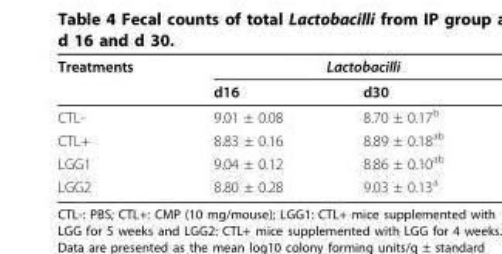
<table><thead><tr><td rowspan="2">Treatments</td><td colspan="2">Lactobacilli</td></tr><tr><td>d16</td><td>d30</td></tr></thead><tbody><tr><td>CTL-</td><td>9.01 ± 0.08</td><td>8.70 ± 0.17<sup>b</sup></td></tr><tr><td>CTL+</td><td>8.83 ± 0.16</td><td>8.89 ± 0.18<sup>ab</sup></td></tr><tr><td>LGG1</td><td>9.04 ± 0.12</td><td>8.86 ± 0.10<sup>ab</sup></td></tr><tr><td>LGG2</td><td>8.80 ± 0.28</td><td>9.03 ± 0.13<sup>a</sup></td></tr></tbody></table>